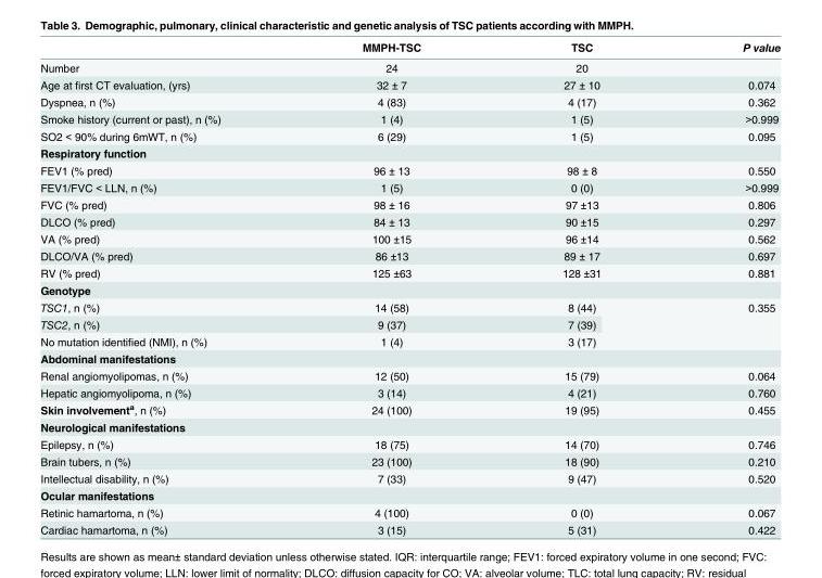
<table><thead><tr><td></td><td>MMPH-TSC</td><td>TSC</td><td>P value</td></tr></thead><tbody><tr><td>Number</td><td>24</td><td>20</td><td></td></tr><tr><td>Age at first CT evaluation, (yrs)</td><td>32 ± 7</td><td>27 ± 10</td><td>0.074</td></tr><tr><td>Dyspnea, n (%)</td><td>4 (83)</td><td>4 (17)</td><td>0.362</td></tr><tr><td>Smoke history (current or past), n (%)</td><td>1 (4)</td><td>1 (5)</td><td>&gt;0.999</td></tr><tr><td>SO2 &lt; 90% during 6mWT, n (%)</td><td>6 (29)</td><td>1 (5)</td><td>0.095</td></tr><tr><td colspan="4">Respiratory function</td></tr><tr><td>FEV1 (% pred)</td><td>96 ± 13</td><td>98 ± 8</td><td>0.550</td></tr><tr><td>FEV1/FVC &lt; LLN, n (%)</td><td>1 (5)</td><td>0 (0)</td><td>&gt;0.999</td></tr><tr><td>FVC (% pred)</td><td>98 ± 16</td><td>97 ±13</td><td>0.806</td></tr><tr><td>DLCO (% pred)</td><td>84 ± 13</td><td>90 ±15</td><td>0.297</td></tr><tr><td>VA (% pred)</td><td>100 ±15</td><td>96 ±14</td><td>0.562</td></tr><tr><td>DLCO/VA (% pred)</td><td>86 ±13</td><td>89 ± 17</td><td>0.697</td></tr><tr><td>RV (% pred)</td><td>125 ±63</td><td>128 ±31</td><td>0.881</td></tr><tr><td colspan="4">Genotype</td></tr><tr><td>TSC1, n (%)</td><td>14 (58)</td><td>8 (44)</td><td rowspan="3">0.355</td></tr><tr><td>TSC2, n (%)</td><td>9 (37)</td><td>7 (39)</td></tr><tr><td>No mutation identified (NMI), n (%)</td><td>1 (4)</td><td>3 (17)</td></tr><tr><td colspan="4">Abdominal manifestations</td></tr><tr><td>Renal angiomyolipomas, n (%)</td><td>12 (50)</td><td>15 (79)</td><td>0.064</td></tr><tr><td>Hepatic angiomyolipoma, n (%)</td><td>3 (14)</td><td>4 (21)</td><td>0.760</td></tr><tr><td>Skin involvement<sup>a</sup>, n (%)</td><td>24 (100)</td><td>19 (95)</td><td>0.455</td></tr><tr><td colspan="4">Neurological manifestations</td></tr><tr><td>Epilepsy, n (%)</td><td>18 (75)</td><td>14 (70)</td><td>0.746</td></tr><tr><td>Brain tubers, n (%)</td><td>23 (100)</td><td>18 (90)</td><td>0.210</td></tr><tr><td>Intellectual disability, n (%)</td><td>7 (33)</td><td>9 (47)</td><td>0.520</td></tr><tr><td colspan="4">Ocular manifestations</td></tr><tr><td>Retinic hamartoma, n (%)</td><td>4 (100)</td><td>0 (0)</td><td>0.067</td></tr><tr><td>Cardiac hamartoma, n (%)</td><td>3 (15)</td><td>5 (31)</td><td>0.422</td></tr></tbody></table>